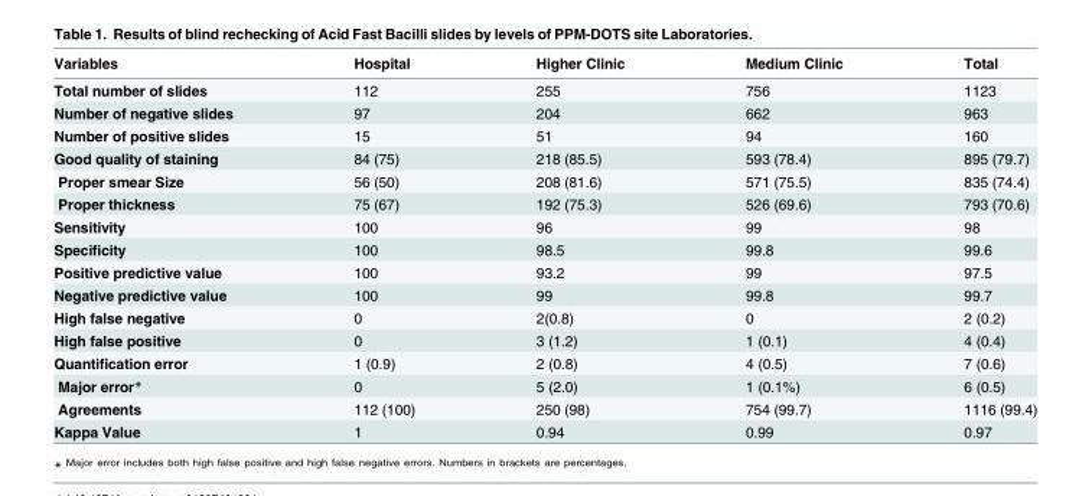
<table><thead><tr><td>Variables</td><td>Hospital</td><td>Higher Clinic</td><td>Medium Clinic</td><td>Total</td></tr></thead><tbody><tr><td>Total number of slides</td><td>112</td><td>255</td><td>756</td><td>1123</td></tr><tr><td>Number of negative slides</td><td>97</td><td>204</td><td>662</td><td>963</td></tr><tr><td>Number of positive slides</td><td>15</td><td>51</td><td>94</td><td>160</td></tr><tr><td>Good quality of staining</td><td>84 (75)</td><td>218 (85.5)</td><td>593 (78.4)</td><td>895 (79.7)</td></tr><tr><td>Proper smear Size</td><td>56 (50)</td><td>208 (81.6)</td><td>571 (75.5)</td><td>835 (74.4)</td></tr><tr><td>Proper thickness</td><td>75 (67)</td><td>192 (75.3)</td><td>526 (69.6)</td><td>793 (70.6)</td></tr><tr><td>Sensitivity</td><td>100</td><td>96</td><td>99</td><td>98</td></tr><tr><td>Specificity</td><td>100</td><td>98.5</td><td>99.8</td><td>99.6</td></tr><tr><td>Positive predictive value</td><td>100</td><td>93.2</td><td>99</td><td>97.5</td></tr><tr><td>Negative predictive value</td><td>100</td><td>99</td><td>99.8</td><td>99.7</td></tr><tr><td>High false negative</td><td>0</td><td>2(0.8)</td><td>0</td><td>2 (0.2)</td></tr><tr><td>High false positive</td><td>0</td><td>3 (1.2)</td><td>1 (0.1)</td><td>4 (0.4)</td></tr><tr><td>Quantification error</td><td>1 (0.9)</td><td>2 (0.8)</td><td>4 (0.5)</td><td>7 (0.6)</td></tr><tr><td>Major error*</td><td>0</td><td>5 (2.0)</td><td>1 (0.1%)</td><td>6 (0.5)</td></tr><tr><td>Agreements</td><td>112 (100)</td><td>250 (98)</td><td>754 (99.7)</td><td>1116 (99.4)</td></tr><tr><td>Kappa Value</td><td>1</td><td>0.94</td><td>0.99</td><td>0.97</td></tr></tbody></table>